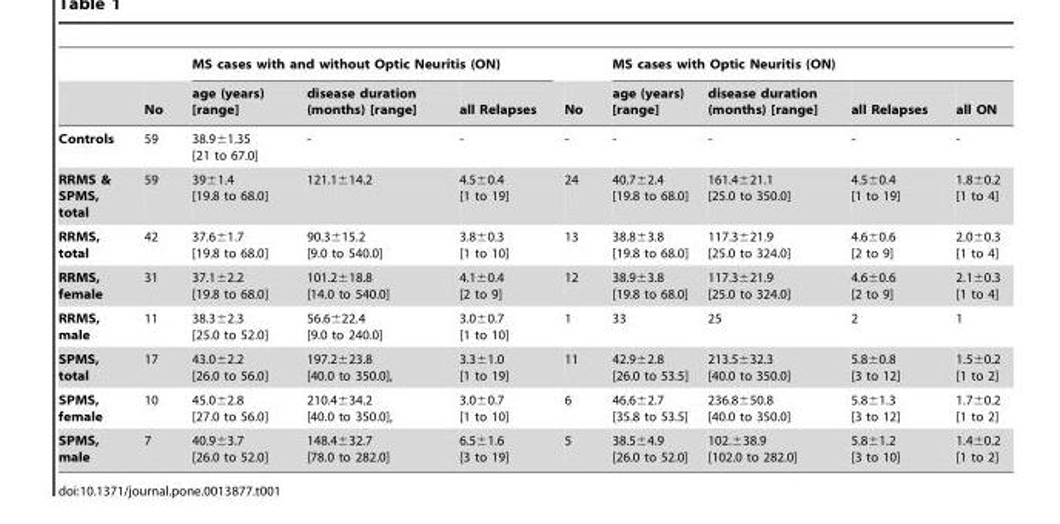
<table><thead><tr><td rowspan="2"></td><td rowspan="2">No</td><td colspan="3">MS cases with and without Optic Neuritis (ON)</td><td rowspan="2">No</td><td colspan="4">MS cases with Optic Neuritis (ON)</td></tr><tr><td>age (years) [range]</td><td>disease duration (months) [range]</td><td>all Relapses</td><td>age (years) [range]</td><td>disease duration (months) [range]</td><td>all Relapses</td><td>all ON</td></tr></thead><tbody><tr><td>Controls</td><td>59</td><td>38.9±1.35 [21 to 67.0]</td><td>-</td><td>-</td><td>-</td><td>-</td><td>-</td><td>-</td><td>-</td></tr><tr><td>RRMS &amp; SPMS, total</td><td>59</td><td>39±1.4 [19.8 to 68.0]</td><td>121.1±14.2</td><td>4.5±0.4 [1 to 19]</td><td>24</td><td>40.7±2.4 [19.8 to 68.0]</td><td>161.4±21.1 [25.0 to 350.0]</td><td>4.5±0.4 [1 to 19]</td><td>1.8±0.2 [1 to 4]</td></tr><tr><td>RRMS, total</td><td>42</td><td>37.6±1.7 [19.8 to 68.0]</td><td>90.3±15.2 [9.0 to 540.0]</td><td>3.8±0.3 [1 to 10]</td><td>13</td><td>38.8±3.8 [19.8 to 68.0]</td><td>117.3±21.9 [25.0 to 324.0]</td><td>4.6±0.6 [2 to 9]</td><td>2.0±0.3 [1 to 4]</td></tr><tr><td>RRMS, female</td><td>31</td><td>37.1±2.2 [19.8 to 68.0]</td><td>101.2±18.8 [14.0 to 540.0]</td><td>4.1±0.4 [2 to 9]</td><td>12</td><td>38.9±3.8 [19.8 to 68.0]</td><td>117.3±21.9 [25.0 to 324.0]</td><td>4.6±0.6 [2 to 9]</td><td>2.1±0.3 [1 to 4]</td></tr><tr><td>RRMS, male</td><td>11</td><td>38.3±2.3 [25.0 to 52.0]</td><td>56.6±22.4 [9.0 to 240.0]</td><td>3.0±0.7 [1 to 10]</td><td>1</td><td>33</td><td>25</td><td>2</td><td>1</td></tr><tr><td>SPMS, total</td><td>17</td><td>43.0±2.2 [26.0 to 56.0]</td><td>197.2±23.8 [40.0 to 350.0],</td><td>3.3±1.0 [1 to 19]</td><td>11</td><td>42.9±2.8 [26.0 to 53.5]</td><td>213.5±32.3 [40.0 to 350.0]</td><td>5.8±0.8 [3 to 12]</td><td>1.5±0.2 [1 to 2]</td></tr><tr><td>SPMS, female</td><td>10</td><td>45.0±2.8 [27.0 to 56.0]</td><td>210.4±34.2 [40.0 to 350.0],</td><td>3.0±0.7 [1 to 10]</td><td>6</td><td>46.6±2.7 [35.8 to 53.5]</td><td>236.8±50.8 [40.0 to 350.0]</td><td>5.8±1.3 [3 to 12]</td><td>1.7±0.2 [1 to 2]</td></tr><tr><td>SPMS, male</td><td>7</td><td>40.9±3.7 [26.0 to 52.0]</td><td>148.4±32.7 [78.0 to 282.0]</td><td>6.5±1.6 [3 to 19]</td><td>5</td><td>38.5±4.9 [26.0 to 52.0]</td><td>102.±38.9 [102.0 to 282.0]</td><td>5.8±1.2 [3 to 10]</td><td>1.4±0.2 [1 to 2]</td></tr></tbody></table>